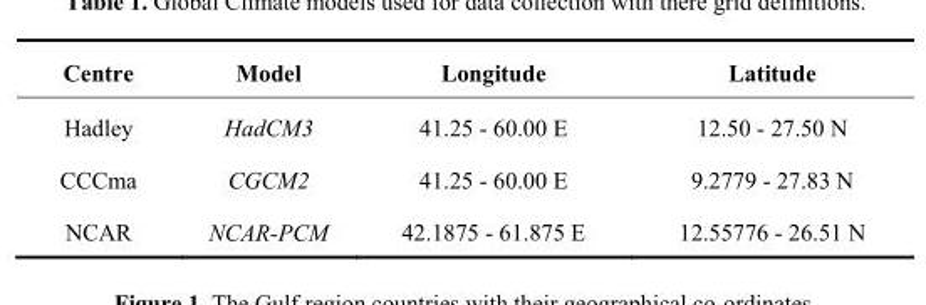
<table><thead><tr><td>Centre</td><td>Model</td><td>Longitude</td><td>Latitude</td></tr></thead><tbody><tr><td>Hadley</td><td>HadCM3</td><td>41.25 - 60.00 E</td><td>12.50 - 27.50 N</td></tr><tr><td>CCCma</td><td>CGCM2</td><td>41.25 - 60.00 E</td><td>9.2779 - 27.83 N</td></tr><tr><td>NCAR</td><td>NCAR-PCM</td><td>42.1875 - 61.875 E</td><td>12.55776 - 26.51 N</td></tr></tbody></table>